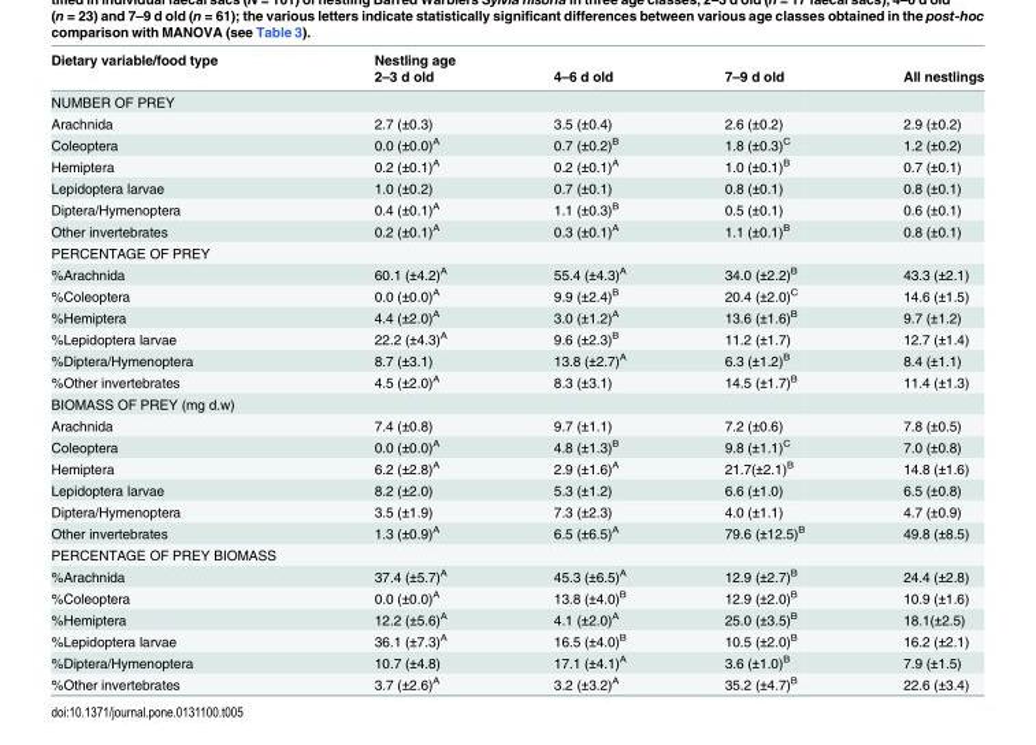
<table><thead><tr><td rowspan="2">Dietary variable/food type</td><td rowspan="2">Nestling age 2–3 d old</td><td rowspan="2">4–6 d old</td><td rowspan="2">7–9 d old</td><td rowspan="2">All nestlings</td></tr><tr></tr></thead><tbody><tr><td colspan="5">NUMBER OF PREY</td></tr><tr><td>Arachnida</td><td>2.7 (±0.3)</td><td>3.5 (±0.4)</td><td>2.6 (±0.2)</td><td>2.9 (±0.2)</td></tr><tr><td>Coleoptera</td><td>0.0 (±0.0)<sup>A</sup></td><td>0.7 (±0.2)<sup>B</sup></td><td>1.8 (±0.3)<sup>C</sup></td><td>1.2 (±0.2)</td></tr><tr><td>Hemiptera</td><td>0.2 (±0.1)<sup>A</sup></td><td>0.2 (±0.1)<sup>A</sup></td><td>1.0 (±0.1)<sup>B</sup></td><td>0.7 (±0.1)</td></tr><tr><td>Lepidoptera larvae</td><td>1.0 (±0.2)</td><td>0.7 (±0.1)</td><td>0.8 (±0.1)</td><td>0.8 (±0.1)</td></tr><tr><td>Diptera/Hymenoptera</td><td>0.4 (±0.1)<sup>A</sup></td><td>1.1 (±0.3)<sup>B</sup></td><td>0.5 (±0.1)</td><td>0.6 (±0.1)</td></tr><tr><td>Other invertebrates</td><td>0.2 (±0.1)<sup>A</sup></td><td>0.3 (±0.1)<sup>A</sup></td><td>1.1 (±0.1)<sup>B</sup></td><td>0.8 (±0.1)</td></tr><tr><td colspan="5">PERCENTAGE OF PREY</td></tr><tr><td>%Arachnida</td><td>60.1 (±4.2)<sup>A</sup></td><td>55.4 (±4.3)<sup>A</sup></td><td>34.0 (±2.2)<sup>B</sup></td><td>43.3 (±2.1)</td></tr><tr><td>%Coleoptera</td><td>0.0 (±0.0)<sup>A</sup></td><td>9.9 (±2.4)<sup>B</sup></td><td>20.4 (±2.0)<sup>C</sup></td><td>14.6 (±1.5)</td></tr><tr><td>%Hemiptera</td><td>4.4 (±2.0)<sup>A</sup></td><td>3.0 (±1.2)<sup>A</sup></td><td>13.6 (±1.6)<sup>B</sup></td><td>9.7 (±1.2)</td></tr><tr><td>%Lepidoptera larvae</td><td>22.2 (±4.3)<sup>A</sup></td><td>9.6 (±2.3)<sup>B</sup></td><td>11.2 (±1.7)</td><td>12.7 (±1.4)</td></tr><tr><td>%Diptera/Hymenoptera</td><td>8.7 (±3.1)</td><td>13.8 (±2.7)<sup>A</sup></td><td>6.3 (±1.2)<sup>B</sup></td><td>8.4 (±1.1)</td></tr><tr><td>%Other invertebrates</td><td>4.5 (±2.0)<sup>A</sup></td><td>8.3 (±3.1)</td><td>14.5 (±1.7)<sup>B</sup></td><td>11.4 (±1.3)</td></tr><tr><td colspan="5">BIOMASS OF PREY (mg d.w)</td></tr><tr><td>Arachnida</td><td>7.4 (±0.8)</td><td>9.7 (±1.1)</td><td>7.2 (±0.6)</td><td>7.8 (±0.5)</td></tr><tr><td>Coleoptera</td><td>0.0 (±0.0)<sup>A</sup></td><td>4.8 (±1.3)<sup>B</sup></td><td>9.8 (±1.1)<sup>C</sup></td><td>7.0 (±0.8)</td></tr><tr><td>Hemiptera</td><td>6.2 (±2.8)<sup>A</sup></td><td>2.9 (±1.6)<sup>A</sup></td><td>21.7(±2.1)<sup>B</sup></td><td>14.8 (±1.6)</td></tr><tr><td>Lepidoptera larvae</td><td>8.2 (±2.0)</td><td>5.3 (±1.2)</td><td>6.6 (±1.0)</td><td>6.5 (±0.8)</td></tr><tr><td>Diptera/Hymenoptera</td><td>3.5 (±1.9)</td><td>7.3 (±2.3)</td><td>4.0 (±1.1)</td><td>4.7 (±0.9)</td></tr><tr><td>Other invertebrates</td><td>1.3 (±0.9)<sup>A</sup></td><td>6.5 (±6.5)<sup>A</sup></td><td>79.6 (±12.5)<sup>B</sup></td><td>49.8 (±8.5)</td></tr><tr><td colspan="5">PERCENTAGE OF PREY BIOMASS</td></tr><tr><td>%Arachnida</td><td>37.4 (±5.7)<sup>A</sup></td><td>45.3 (±6.5)<sup>A</sup></td><td>12.9 (±2.7)<sup>B</sup></td><td>24.4 (±2.8)</td></tr><tr><td>%Coleoptera</td><td>0.0 (±0.0)<sup>A</sup></td><td>13.8 (±4.0)<sup>B</sup></td><td>12.9 (±2.0)<sup>B</sup></td><td>10.9 (±1.6)</td></tr><tr><td>%Hemiptera</td><td>12.2 (±5.6)<sup>A</sup></td><td>4.1 (±2.0)<sup>A</sup></td><td>25.0 (±3.5)<sup>B</sup></td><td>18.1(±2.5)</td></tr><tr><td>%Lepidoptera larvae</td><td>36.1 (±7.3)<sup>A</sup></td><td>16.5 (±4.0)<sup>B</sup></td><td>10.5 (±2.0)<sup>B</sup></td><td>16.2 (±2.1)</td></tr><tr><td>%Diptera/Hymenoptera</td><td>10.7 (±4.8)</td><td>17.1 (±4.1)<sup>A</sup></td><td>3.6 (±1.0)<sup>B</sup></td><td>7.9 (±1.5)</td></tr><tr><td>%Other invertebrates</td><td>3.7 (±2.6)<sup>A</sup></td><td>3.2 (±3.2)<sup>A</sup></td><td>35.2 (±4.7)<sup>B</sup></td><td>22.6 (±3.4)</td></tr></tbody></table>